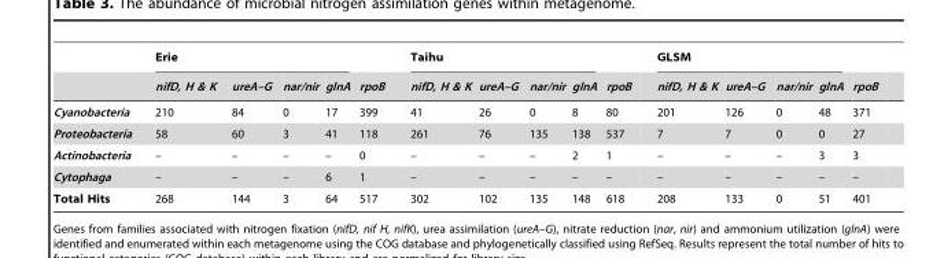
<table><thead><tr><td rowspan="2"></td><td colspan="4">Erie</td><td rowspan="2">rpoB</td><td colspan="4">Taihu</td><td rowspan="2">rpoB</td><td colspan="4">GLSM</td><td rowspan="2">rpoB</td></tr><tr><td>nifD, H &amp; K</td><td>ureA–G</td><td>nar/nir</td><td>glnA</td><td>nifD, H &amp; K</td><td>ureA–G</td><td>nar/nir</td><td>glnA</td><td>nifD, H &amp; K</td><td>ureA–G</td><td>nar/nir</td><td>glnA</td></tr></thead><tbody><tr><td>Cyanobacteria</td><td>210</td><td>84</td><td>0</td><td>17</td><td>399</td><td>41</td><td>26</td><td>0</td><td>8</td><td>80</td><td>201</td><td>126</td><td>0</td><td>48</td><td>371</td></tr><tr><td>Proteobacteria</td><td>58</td><td>60</td><td>3</td><td>41</td><td>118</td><td>261</td><td>76</td><td>135</td><td>138</td><td>537</td><td>7</td><td>7</td><td>0</td><td>0</td><td>27</td></tr><tr><td>Actinobacteria</td><td>–</td><td>–</td><td>–</td><td>–</td><td>0</td><td>–</td><td>–</td><td>–</td><td>2</td><td>1</td><td>–</td><td>–</td><td>–</td><td>3</td><td>3</td></tr><tr><td>Cytophaga</td><td>–</td><td>–</td><td>–</td><td>6</td><td>1</td><td>–</td><td>–</td><td>–</td><td>–</td><td>–</td><td>–</td><td>–</td><td>–</td><td>–</td><td>–</td></tr><tr><td>Total Hits</td><td>268</td><td>144</td><td>3</td><td>64</td><td>517</td><td>302</td><td>102</td><td>135</td><td>148</td><td>618</td><td>208</td><td>133</td><td>0</td><td>51</td><td>401</td></tr></tbody></table>